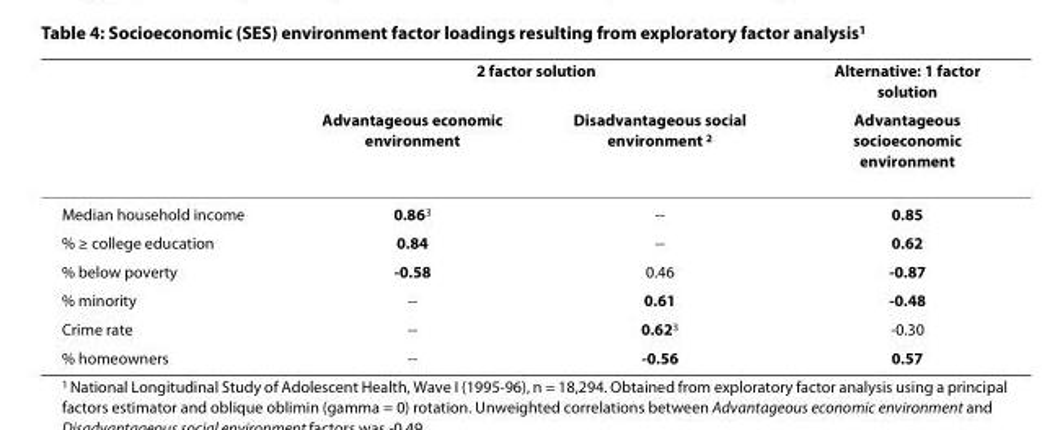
<table><thead><tr><td rowspan="2"></td><td colspan="2">2 factor solution</td><td rowspan="2">Alternative: 1 factor solution Advantageous socioeconomic environment</td></tr><tr><td>Advantageous economic environment</td><td>Disadvantageous social environment <sup>2</sup></td></tr></thead><tbody><tr><td>Median household income</td><td>0.86<sup>3</sup></td><td>--</td><td>0.85</td></tr><tr><td>% ≥ college education</td><td>0.84</td><td>--</td><td>0.62</td></tr><tr><td>% below poverty</td><td>-0.58</td><td>0.46</td><td>-0.87</td></tr><tr><td>% minority</td><td>--</td><td>0.61</td><td>-0.48</td></tr><tr><td>Crime rate</td><td>--</td><td>0.62<sup>3</sup></td><td>-0.30</td></tr><tr><td>% homeowners</td><td>--</td><td>-0.56</td><td>0.57</td></tr></tbody></table>